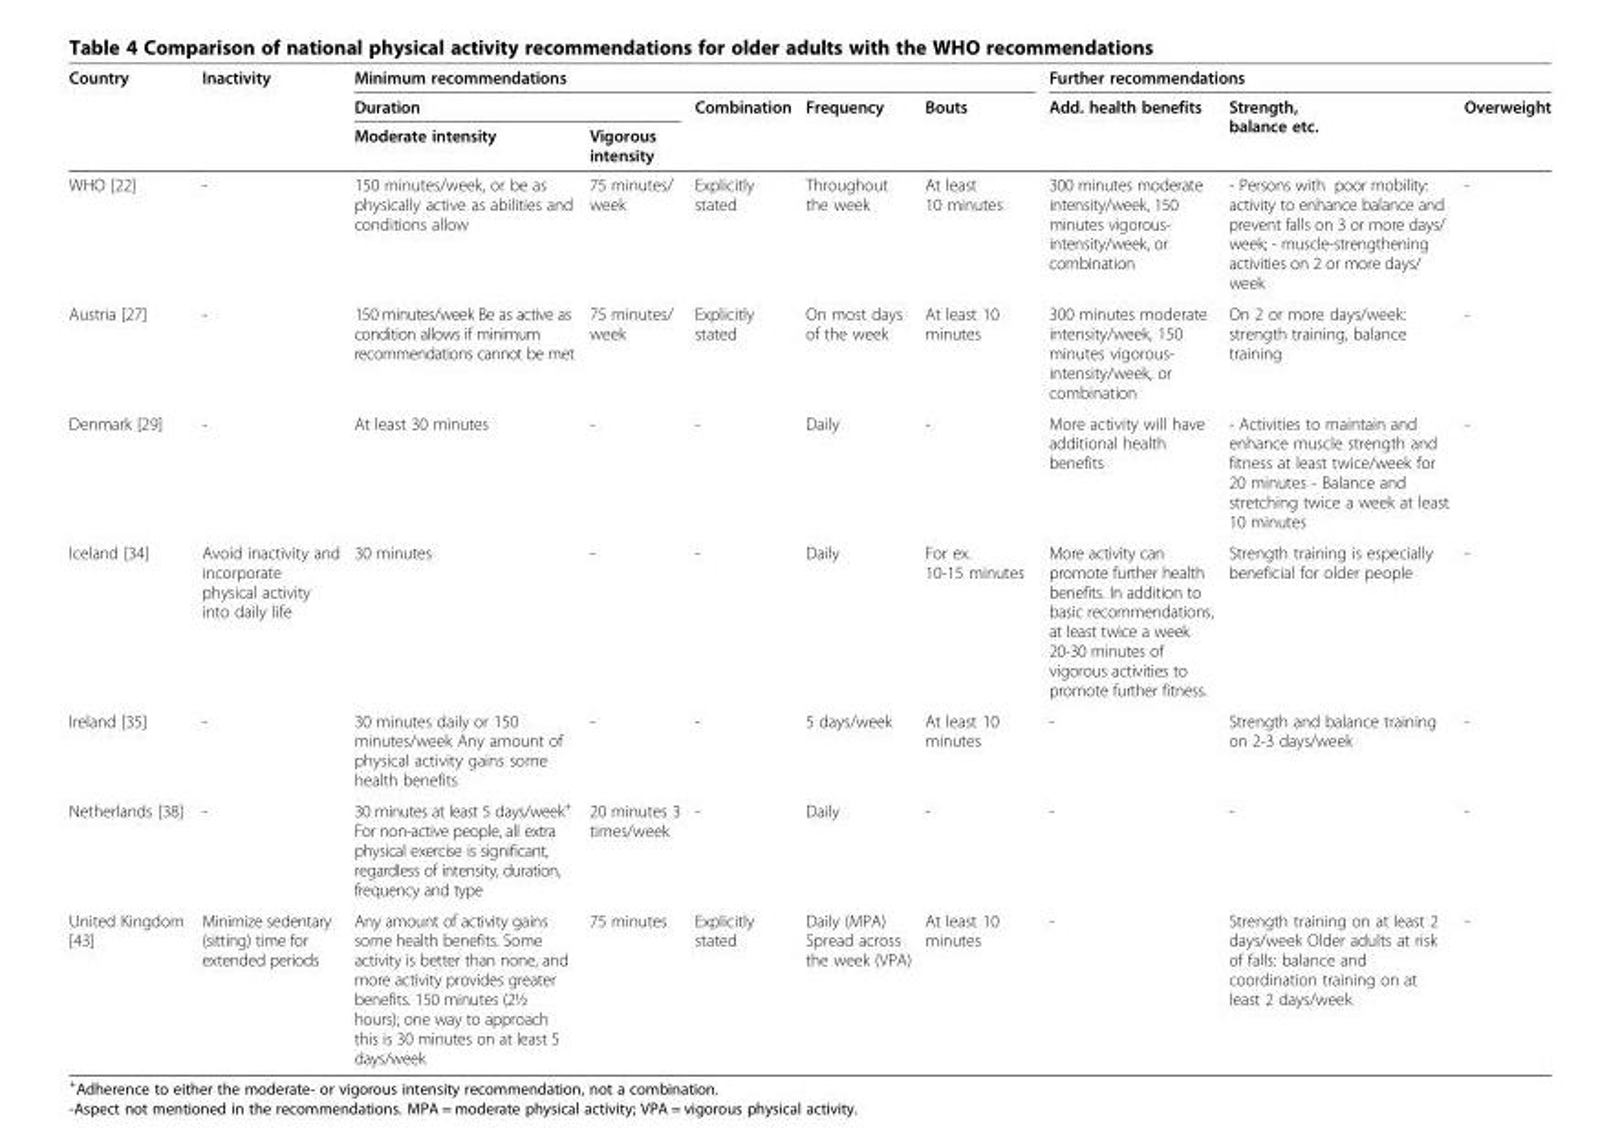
<table><thead><tr><td rowspan="3">Country</td><td rowspan="3">Inactivity</td><td colspan="5">Minimum recommendations</td><td colspan="3">Further recommendations</td></tr><tr><td colspan="2">Duration</td><td rowspan="2">Combination</td><td rowspan="2">Frequency</td><td rowspan="2">Bouts</td><td rowspan="2">Add. health benefits</td><td rowspan="2">Strength, balance etc.</td><td rowspan="2">Overweight</td></tr><tr><td>Moderate intensity</td><td>Vigorous intensity</td></tr></thead><tbody><tr><td>WHO [22]</td><td>-</td><td>150 minutes/week, or be as physically active as abilities and conditions allow</td><td>75 minutes/ week</td><td>Explicitly stated</td><td>Throughout the week</td><td>At least 10 minutes</td><td>300 minutes moderate intensity/week, 150 minutes vigorous- intensity/week, or combination</td><td>- Persons with poor mobility: activity to enhance balance and prevent falls on 3 or more days/ week; - muscle-strengthening activities on 2 or more days/ week</td><td>-</td></tr><tr><td>Austria [27]</td><td>-</td><td>150 minutes/week Be as active as condition allows if minimum recommendations cannot be met</td><td>75 minutes/ week</td><td>Explicitly stated</td><td>On most days of the week</td><td>At least 10 minutes</td><td>300 minutes moderate intensity/week, 150 minutes vigorous- intensity/week, or combination</td><td>On 2 or more days/week: strength training, balance training</td><td>-</td></tr><tr><td>Denmark [29]</td><td>-</td><td>At least 30 minutes</td><td>-</td><td>-</td><td>Daily</td><td>-</td><td>More activity will have additional health benefits</td><td>- Activities to maintain and enhance muscle strength and fitness at least twice/week for 20 minutes - Balance and stretching twice a week at least 10 minutes</td><td>-</td></tr><tr><td>Iceland [34]</td><td>Avoid inactivity and incorporate physical activity into daily life</td><td>30 minutes</td><td>-</td><td>-</td><td>Daily</td><td>For ex. 10-15 minutes</td><td>More activity can promote further health benefits. In addition to basic recommendations, at least twice a week 20-30 minutes of vigorous activities to promote further fitness.</td><td>Strength training is especially beneficial for older people</td><td>-</td></tr><tr><td>Ireland [35]</td><td>-</td><td>30 minutes daily or 150 minutes/week Any amount of physical activity gains some health benefits</td><td>-</td><td>-</td><td>5 days/week</td><td>At least 10 minutes</td><td>-</td><td>Strength and balance training on 2-3 days/week</td><td>-</td></tr><tr><td>Netherlands [38]</td><td>-</td><td>30 minutes at least 5 days/week<sup>+</sup> For non-active people, all extra physical exercise is significant, regardless of intensity, duration, frequency and type</td><td>20 minutes 3 times/week</td><td>-</td><td>Daily</td><td>-</td><td>-</td><td>-</td><td>-</td></tr><tr><td>United Kingdom [43]</td><td>Minimize sedentary (sitting) time for extended periods</td><td>Any amount of activity gains some health benefits. Some activity is better than none, and more activity provides greater benefits. 150 minutes (2½ hours); one way to approach this is 30 minutes on at least 5 days/week</td><td>75 minutes</td><td>Explicitly stated</td><td>Daily (MPA) Spread across the week (VPA)</td><td>At least 10 minutes</td><td>-</td><td>Strength training on at least 2 days/week Older adults at risk of falls: balance and coordination training on at least 2 days/week</td><td>-</td></tr></tbody></table>